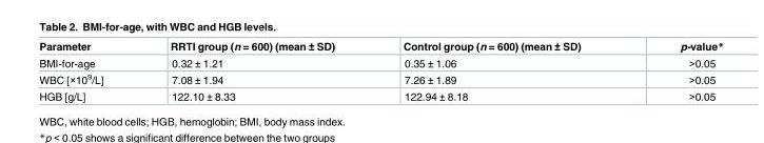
<table><thead><tr><td>Parameter</td><td>RRTI group (n = 600) (mean ± SD)</td><td>Control group (n = 600) (mean ± SD)</td><td>p-value*</td></tr></thead><tbody><tr><td>BMI-for-age</td><td>0.32 ± 1.21</td><td>0.35 ± 1.06</td><td>&gt;0.05</td></tr><tr><td>WBC [×10<sup>9</sup>/L]</td><td>7.08 ± 1.94</td><td>7.26 ± 1.89</td><td>&gt;0.05</td></tr><tr><td>HGB [g/L]</td><td>122.10 ± 8.33</td><td>122.94 ± 8.18</td><td>&gt;0.05</td></tr></tbody></table>